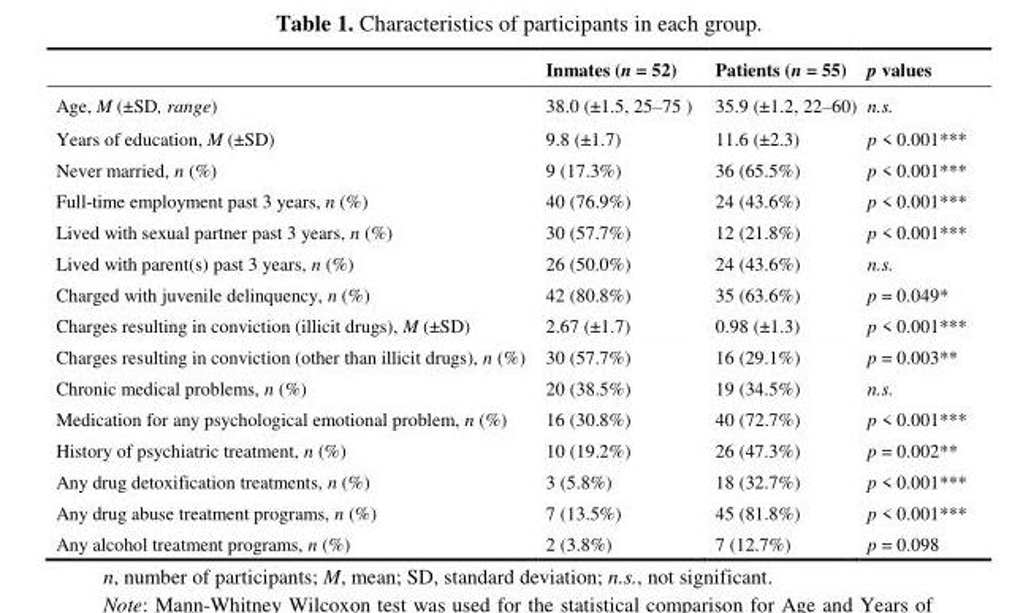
<table><thead><tr><td></td><td>Inmates (n = 52)</td><td>Patients (n = 55)</td><td>p values</td></tr></thead><tbody><tr><td>Age, M (±SD, range)</td><td>38.0 (±1.5, 25–75 )</td><td>35.9 (±1.2, 22–60)</td><td>n.s.</td></tr><tr><td>Years of education, M (±SD)</td><td>9.8 (±1.7)</td><td>11.6 (±2.3)</td><td>p &lt; 0.001***</td></tr><tr><td>Never married, n (%)</td><td>9 (17.3%)</td><td>36 (65.5%)</td><td>p &lt; 0.001***</td></tr><tr><td>Full-time employment past 3 years, n (%)</td><td>40 (76.9%)</td><td>24 (43.6%)</td><td>p &lt; 0.001***</td></tr><tr><td>Lived with sexual partner past 3 years, n (%)</td><td>30 (57.7%)</td><td>12 (21.8%)</td><td>p &lt; 0.001***</td></tr><tr><td>Lived with parent(s) past 3 years, n (%)</td><td>26 (50.0%)</td><td>24 (43.6%)</td><td>n.s.</td></tr><tr><td>Charged with juvenile delinquency, n (%)</td><td>42 (80.8%)</td><td>35 (63.6%)</td><td>p = 0.049*</td></tr><tr><td>Charges resulting in conviction (illicit drugs), M (±SD)</td><td>2.67 (±1.7)</td><td>0.98 (±1.3)</td><td>p &lt; 0.001***</td></tr><tr><td>Charges resulting in conviction (other than illicit drugs), n (%)</td><td>30 (57.7%)</td><td>16 (29.1%)</td><td>p = 0.003**</td></tr><tr><td>Chronic medical problems, n (%)</td><td>20 (38.5%)</td><td>19 (34.5%)</td><td>n.s.</td></tr><tr><td>Medication for any psychological emotional problem, n (%)</td><td>16 (30.8%)</td><td>40 (72.7%)</td><td>p &lt; 0.001***</td></tr><tr><td>History of psychiatric treatment, n (%)</td><td>10 (19.2%)</td><td>26 (47.3%)</td><td>p = 0.002**</td></tr><tr><td>Any drug detoxification treatments, n (%)</td><td>3 (5.8%)</td><td>18 (32.7%)</td><td>p &lt; 0.001***</td></tr><tr><td>Any drug abuse treatment programs, n (%)</td><td>7 (13.5%)</td><td>45 (81.8%)</td><td>p &lt; 0.001***</td></tr><tr><td>Any alcohol treatment programs, n (%)</td><td>2 (3.8%)</td><td>7 (12.7%)</td><td>p = 0.098</td></tr></tbody></table>